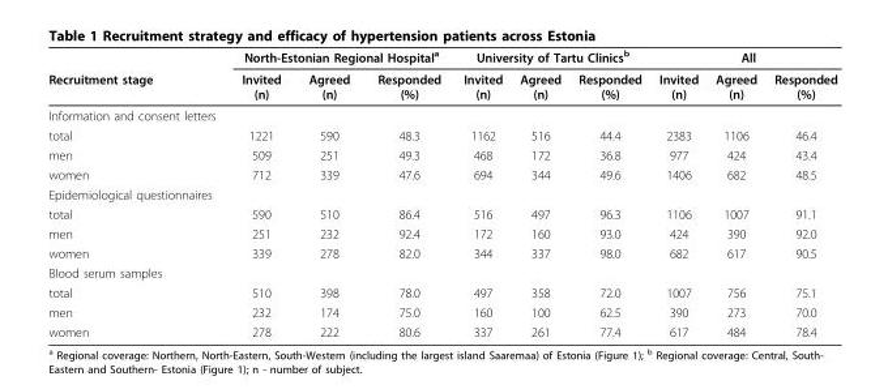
<table><thead><tr><td rowspan="2">Recruitment stage</td><td colspan="3">North-Estonian Regional Hospital<sup>a</sup></td><td colspan="3">University of Tartu Clinics<sup>b</sup></td><td colspan="3">All</td></tr><tr><td>Invited (n)</td><td>Agreed (n)</td><td>Responded (%)</td><td>Invited (n)</td><td>Agreed (n)</td><td>Responded (%)</td><td>Invited (n)</td><td>Agreed (n)</td><td>Responded (%)</td></tr></thead><tbody><tr><td colspan="10">Information and consent letters</td></tr><tr><td>total</td><td>1221</td><td>590</td><td>48.3</td><td>1162</td><td>516</td><td>44.4</td><td>2383</td><td>1106</td><td>46.4</td></tr><tr><td>men</td><td>509</td><td>251</td><td>49.3</td><td>468</td><td>172</td><td>36.8</td><td>977</td><td>424</td><td>43.4</td></tr><tr><td>women</td><td>712</td><td>339</td><td>47.6</td><td>694</td><td>344</td><td>49.6</td><td>1406</td><td>682</td><td>48.5</td></tr><tr><td colspan="10">Epidemiological questionnaires</td></tr><tr><td>total</td><td>590</td><td>510</td><td>86.4</td><td>516</td><td>497</td><td>96.3</td><td>1106</td><td>1007</td><td>91.1</td></tr><tr><td>men</td><td>251</td><td>232</td><td>92.4</td><td>172</td><td>160</td><td>93.0</td><td>424</td><td>390</td><td>92.0</td></tr><tr><td>women</td><td>339</td><td>278</td><td>82.0</td><td>344</td><td>337</td><td>98.0</td><td>682</td><td>617</td><td>90.5</td></tr><tr><td colspan="10">Blood serum samples</td></tr><tr><td>total</td><td>510</td><td>398</td><td>78.0</td><td>497</td><td>358</td><td>72.0</td><td>1007</td><td>756</td><td>75.1</td></tr><tr><td>men</td><td>232</td><td>174</td><td>75.0</td><td>160</td><td>100</td><td>62.5</td><td>390</td><td>273</td><td>70.0</td></tr><tr><td>women</td><td>278</td><td>222</td><td>80.6</td><td>337</td><td>261</td><td>77.4</td><td>617</td><td>484</td><td>78.4</td></tr></tbody></table>